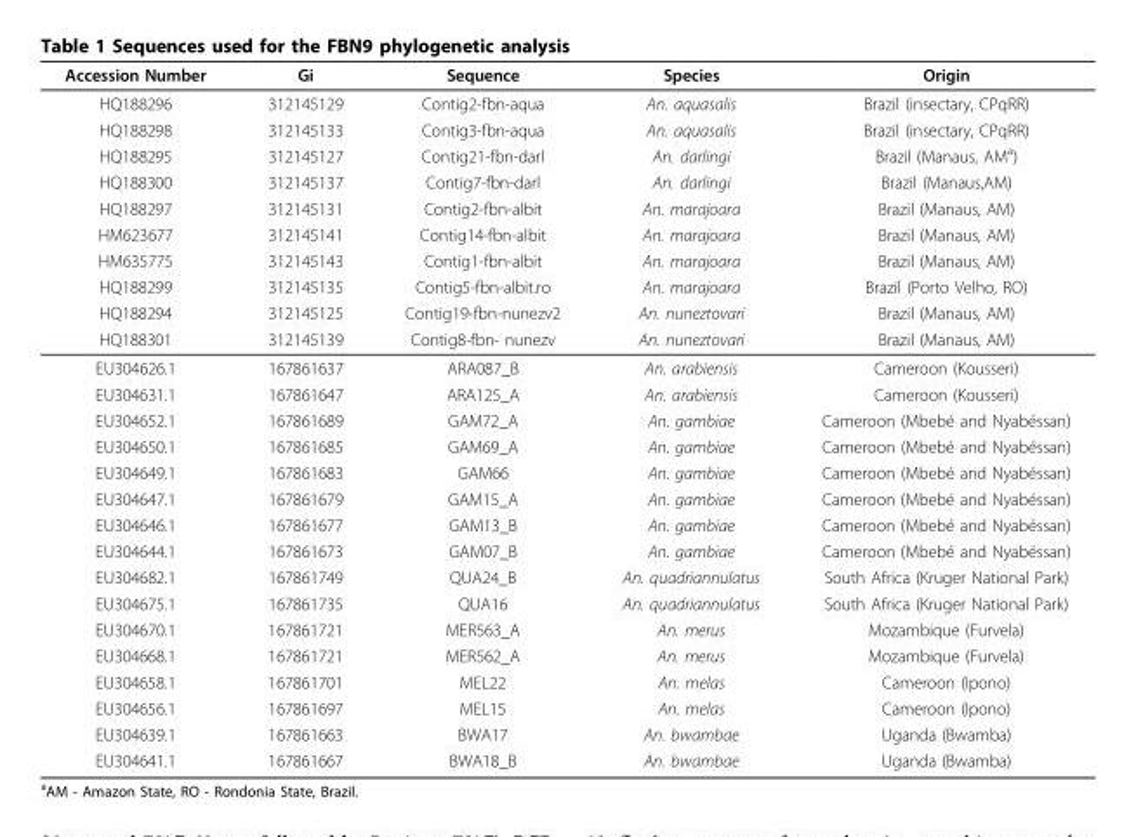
<table><thead><tr><td>Accession Number</td><td>Gi</td><td>Sequence</td><td>Species</td><td>Origin</td></tr></thead><tbody><tr><td>HQ188296</td><td>312145129</td><td>Contig2-fbn-aqua</td><td>An. aquasalis</td><td>Brazil (insectary, CPqRR)</td></tr><tr><td>HQ188298</td><td>312145133</td><td>Contig3-fbn-aqua</td><td>An. aquasalis</td><td>Brazil (insectary, CPqRR)</td></tr><tr><td>HQ188295</td><td>312145127</td><td>Contig21-fbn-darl</td><td>An. darlingi</td><td>Brazil (Manaus, AM<sup>a</sup>)</td></tr><tr><td>HQ188300</td><td>312145137</td><td>Contig7-fbn-darl</td><td>An. darlingi</td><td>Brazil (Manaus,AM)</td></tr><tr><td>HQ188297</td><td>312145131</td><td>Contig2-fbn-albit</td><td>An. marajoara</td><td>Brazil (Manaus, AM)</td></tr><tr><td>HM623677</td><td>312145141</td><td>Contig14-fbn-albit</td><td>An. marajoara</td><td>Brazil (Manaus, AM)</td></tr><tr><td>HM635775</td><td>312145143</td><td>Contig1-fbn-albit</td><td>An. marajoara</td><td>Brazil (Manaus, AM)</td></tr><tr><td>HQ188299</td><td>312145135</td><td>Contig5-fbn-albit.ro</td><td>An. marajoara</td><td>Brazil (Porto Velho, RO)</td></tr><tr><td>HQ188294</td><td>312145125</td><td>Contig19-fbn-nunezv2</td><td>An. nuneztovari</td><td>Brazil (Manaus, AM)</td></tr><tr><td>HQ188301</td><td>312145139</td><td>Contig8-fbn- nunezv</td><td>An. nuneztovari</td><td>Brazil (Manaus, AM)</td></tr><tr><td>EU304626.1</td><td>167861637</td><td>ARA087_B</td><td>An. arabiensis</td><td>Cameroon (Kousseri)</td></tr><tr><td>EU304631.1</td><td>167861647</td><td>ARA125_A</td><td>An. arabiensis</td><td>Cameroon (Kousseri)</td></tr><tr><td>EU304652.1</td><td>167861689</td><td>GAM72_A</td><td>An. gambiae</td><td>Cameroon (Mbebé and Nyabéssan)</td></tr><tr><td>EU304650.1</td><td>167861685</td><td>GAM69_A</td><td>An. gambiae</td><td>Cameroon (Mbebé and Nyabéssan)</td></tr><tr><td>EU304649.1</td><td>167861683</td><td>GAM66</td><td>An. gambiae</td><td>Cameroon (Mbebé and Nyabéssan)</td></tr><tr><td>EU304647.1</td><td>167861679</td><td>GAM15_A</td><td>An. gambiae</td><td>Cameroon (Mbebé and Nyabéssan)</td></tr><tr><td>EU304646.1</td><td>167861677</td><td>GAM13_B</td><td>An. gambiae</td><td>Cameroon (Mbebé and Nyabéssan)</td></tr><tr><td>EU304644.1</td><td>167861673</td><td>GAM07_B</td><td>An. gambiae</td><td>Cameroon (Mbebé and Nyabéssan)</td></tr><tr><td>EU304682.1</td><td>167861749</td><td>QUA24_B</td><td>An. quadriannulatus</td><td>South Africa (Kruger National Park)</td></tr><tr><td>EU304675.1</td><td>167861735</td><td>QUA16</td><td>An. quadriannulatus</td><td>South Africa (Kruger National Park)</td></tr><tr><td>EU304670.1</td><td>167861721</td><td>MER563_A</td><td>An. merus</td><td>Mozambique (Furvela)</td></tr><tr><td>EU304668.1</td><td>167861721</td><td>MER562_A</td><td>An. merus</td><td>Mozambique (Furvela)</td></tr><tr><td>EU304658.1</td><td>167861701</td><td>MEL22</td><td>An. melas</td><td>Cameroon (Ipono)</td></tr><tr><td>EU304656.1</td><td>167861697</td><td>MEL15</td><td>An. melas</td><td>Cameroon (Ipono)</td></tr><tr><td>EU304639.1</td><td>167861663</td><td>BWA17</td><td>An. bwambae</td><td>Uganda (Bwamba)</td></tr><tr><td>EU304641.1</td><td>167861667</td><td>BWA18_B</td><td>An. bwambae</td><td>Uganda (Bwamba)</td></tr></tbody></table>